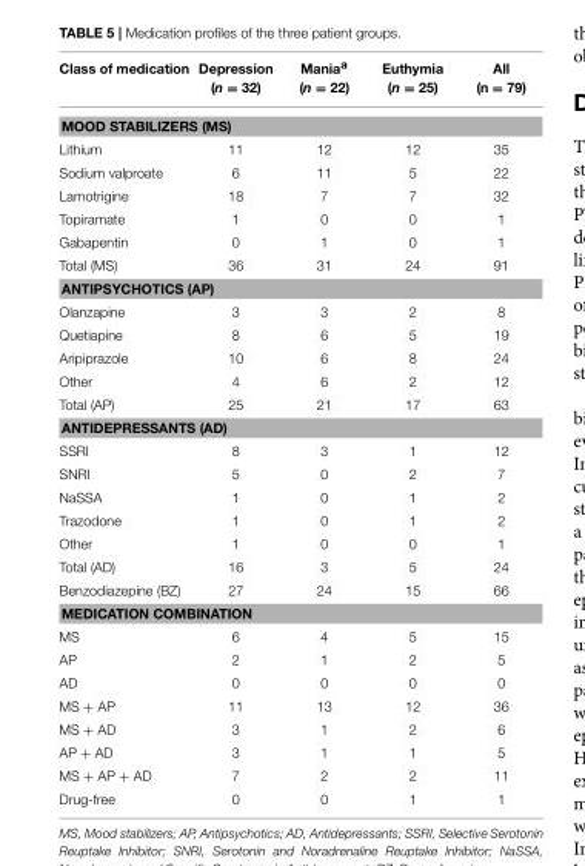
<table><thead><tr><td>Class of medication</td><td>Depression (n = 32)</td><td>Mania<sup>a</sup> (n = 22)</td><td>Euthymia (n = 25)</td><td>All (n = 79)</td></tr></thead><tbody><tr><td colspan="5">MOOD STABILIZERS (MS)</td></tr><tr><td>Lithium</td><td>11</td><td>12</td><td>12</td><td>35</td></tr><tr><td>Sodium valproate</td><td>6</td><td>11</td><td>5</td><td>22</td></tr><tr><td>Lamotrigine</td><td>18</td><td>7</td><td>7</td><td>32</td></tr><tr><td>Topiramate</td><td>1</td><td>0</td><td>0</td><td>1</td></tr><tr><td>Gabapentin</td><td>0</td><td>1</td><td>0</td><td>1</td></tr><tr><td>Total (MS)</td><td>36</td><td>31</td><td>24</td><td>91</td></tr><tr><td colspan="5">ANTIPSYCHOTICS (AP)</td></tr><tr><td>Olanzapine</td><td>3</td><td>3</td><td>2</td><td>8</td></tr><tr><td>Quetiapine</td><td>8</td><td>6</td><td>5</td><td>19</td></tr><tr><td>Aripiprazole</td><td>10</td><td>6</td><td>8</td><td>24</td></tr><tr><td>Other</td><td>4</td><td>6</td><td>2</td><td>12</td></tr><tr><td>Total (AP)</td><td>25</td><td>21</td><td>17</td><td>63</td></tr><tr><td colspan="5">ANTIDEPRESSANTS (AD)</td></tr><tr><td>SSRI</td><td>8</td><td>3</td><td>1</td><td>12</td></tr><tr><td>SNRI</td><td>5</td><td>0</td><td>2</td><td>7</td></tr><tr><td>NaSSA</td><td>1</td><td>0</td><td>1</td><td>2</td></tr><tr><td>Trazodone</td><td>1</td><td>0</td><td>1</td><td>2</td></tr><tr><td>Other</td><td>1</td><td>0</td><td>0</td><td>1</td></tr><tr><td>Total (AD)</td><td>16</td><td>3</td><td>5</td><td>24</td></tr><tr><td>Benzodiazepine (BZ)</td><td>27</td><td>24</td><td>15</td><td>66</td></tr><tr><td colspan="5">MEDICATION COMBINATION</td></tr><tr><td>MS</td><td>6</td><td>4</td><td>5</td><td>15</td></tr><tr><td>AP</td><td>2</td><td>1</td><td>2</td><td>5</td></tr><tr><td>AD</td><td>0</td><td>0</td><td>0</td><td>0</td></tr><tr><td>MS + AP</td><td>11</td><td>13</td><td>12</td><td>36</td></tr><tr><td>MS + AD</td><td>3</td><td>1</td><td>2</td><td>6</td></tr><tr><td>AP + AD</td><td>3</td><td>1</td><td>1</td><td>5</td></tr><tr><td>MS + AP + AD</td><td>7</td><td>2</td><td>2</td><td>11</td></tr><tr><td>Drug-free</td><td>0</td><td>0</td><td>1</td><td>1</td></tr></tbody></table>